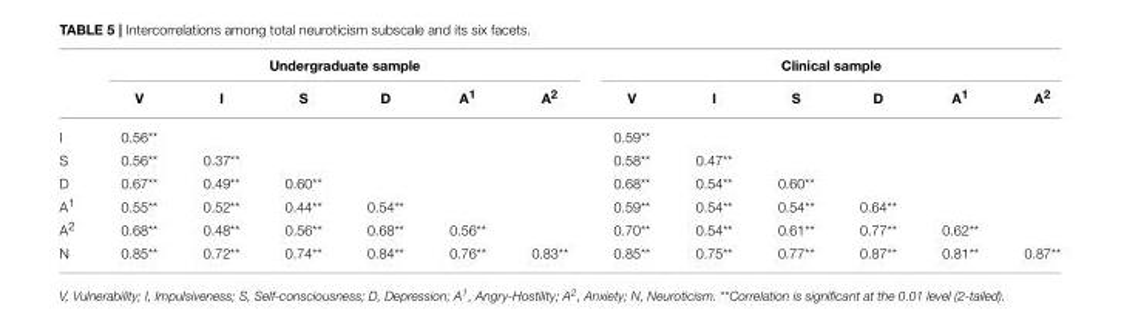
<table><thead><tr><td rowspan="2"></td><td colspan="6">Undergraduate sample</td><td colspan="6">Clinical sample</td></tr><tr><td>V</td><td>I</td><td>S</td><td>D</td><td>A<sup>1</sup></td><td>A<sup>2</sup></td><td>V</td><td>I</td><td>S</td><td>D</td><td>A<sup>1</sup></td><td>A<sup>2</sup></td></tr></thead><tbody><tr><td>I</td><td>0.56**</td><td></td><td></td><td></td><td></td><td></td><td>0.59**</td><td></td><td></td><td></td><td></td><td></td></tr><tr><td>S</td><td>0.56**</td><td>0.37**</td><td></td><td></td><td></td><td></td><td>0.58**</td><td>0.47**</td><td></td><td></td><td></td><td></td></tr><tr><td>D</td><td>0.67**</td><td>0.49**</td><td>0.60**</td><td></td><td></td><td></td><td>0.68**</td><td>0.54**</td><td>0.60**</td><td></td><td></td><td></td></tr><tr><td>A<sup>1</sup></td><td>0.55**</td><td>0.52**</td><td>0.44**</td><td>0.54**</td><td></td><td></td><td>0.59**</td><td>0.54**</td><td>0.54**</td><td>0.64**</td><td></td><td></td></tr><tr><td>A<sup>2</sup></td><td>0.68**</td><td>0.48**</td><td>0.56**</td><td>0.68**</td><td>0.56**</td><td></td><td>0.70**</td><td>0.54**</td><td>0.61**</td><td>0.77**</td><td>0.62**</td><td></td></tr><tr><td>N</td><td>0.85**</td><td>0.72**</td><td>0.74**</td><td>0.84**</td><td>0.76**</td><td>0.83**</td><td>0.85**</td><td>0.75**</td><td>0.77**</td><td>0.87**</td><td>0.81**</td><td>0.87**</td></tr></tbody></table>